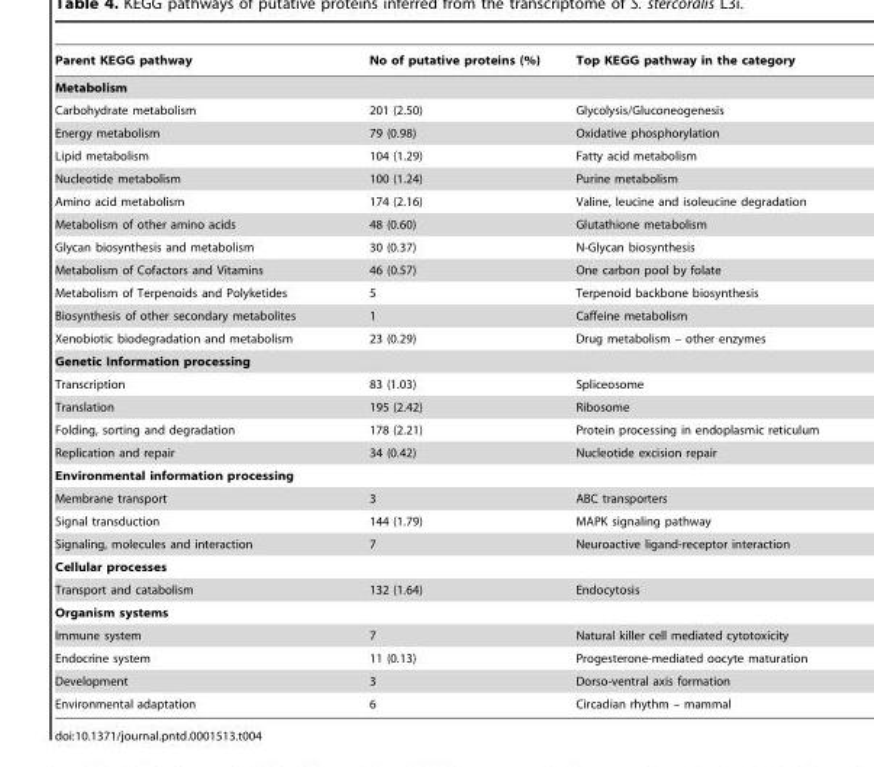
<table><thead><tr><td>Parent KEGG pathway</td><td>No of putative proteins (%)</td><td>Top KEGG pathway in the category</td></tr></thead><tbody><tr><td colspan="3">Metabolism</td></tr><tr><td>Carbohydrate metabolism</td><td>201 (2.50)</td><td>Glycolysis/Gluconeogenesis</td></tr><tr><td>Energy metabolism</td><td>79 (0.98)</td><td>Oxidative phosphorylation</td></tr><tr><td>Lipid metabolism</td><td>104 (1.29)</td><td>Fatty acid metabolism</td></tr><tr><td>Nucleotide metabolism</td><td>100 (1.24)</td><td>Purine metabolism</td></tr><tr><td>Amino acid metabolism</td><td>174 (2.16)</td><td>Valine, leucine and isoleucine degradation</td></tr><tr><td>Metabolism of other amino acids</td><td>48 (0.60)</td><td>Glutathione metabolism</td></tr><tr><td>Glycan biosynthesis and metabolism</td><td>30 (0.37)</td><td>N-Glycan biosynthesis</td></tr><tr><td>Metabolism of Cofactors and Vitamins</td><td>46 (0.57)</td><td>One carbon pool by folate</td></tr><tr><td>Metabolism of Terpenoids and Polyketides</td><td>5</td><td>Terpenoid backbone biosynthesis</td></tr><tr><td>Biosynthesis of other secondary metabolites</td><td>1</td><td>Caffeine metabolism</td></tr><tr><td>Xenobiotic biodegradation and metabolism</td><td>23 (0.29)</td><td>Drug metabolism – other enzymes</td></tr><tr><td colspan="3">Genetic Information processing</td></tr><tr><td>Transcription</td><td>83 (1.03)</td><td>Spliceosome</td></tr><tr><td>Translation</td><td>195 (2.42)</td><td>Ribosome</td></tr><tr><td>Folding, sorting and degradation</td><td>178 (2.21)</td><td>Protein processing in endoplasmic reticulum</td></tr><tr><td>Replication and repair</td><td>34 (0.42)</td><td>Nucleotide excision repair</td></tr><tr><td colspan="3">Environmental information processing</td></tr><tr><td>Membrane transport</td><td>3</td><td>ABC transporters</td></tr><tr><td>Signal transduction</td><td>144 (1.79)</td><td>MAPK signaling pathway</td></tr><tr><td>Signaling, molecules and interaction</td><td>7</td><td>Neuroactive ligand-receptor interaction</td></tr><tr><td colspan="3">Cellular processes</td></tr><tr><td>Transport and catabolism</td><td>132 (1.64)</td><td>Endocytosis</td></tr><tr><td colspan="3">Organism systems</td></tr><tr><td>Immune system</td><td>7</td><td>Natural killer cell mediated cytotoxicity</td></tr><tr><td>Endocrine system</td><td>11 (0.13)</td><td>Progesterone-mediated oocyte maturation</td></tr><tr><td>Development</td><td>3</td><td>Dorso-ventral axis formation</td></tr><tr><td>Environmental adaptation</td><td>6</td><td>Circadian rhythm – mammal</td></tr></tbody></table>